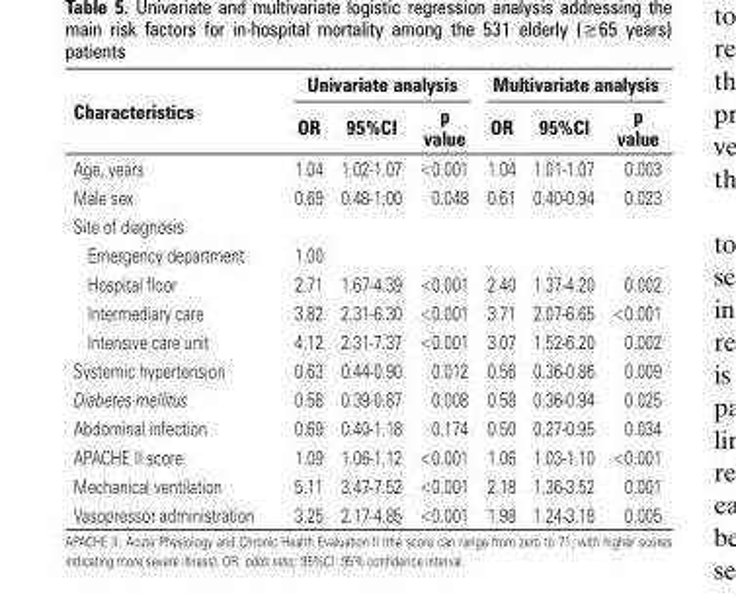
<table><thead><tr><td rowspan="2">Characteristics</td><td colspan="3">Univariate analysis</td><td colspan="3">Multivariate analysis</td></tr><tr><td>OR</td><td>95%CI</td><td>p value</td><td>OR</td><td>95%CI</td><td>p value</td></tr></thead><tbody><tr><td>Age, years</td><td>1.04</td><td>1.02-1.07</td><td>&lt;0.001</td><td>1.04</td><td>1.01-1.07</td><td>0.003</td></tr><tr><td>Male sex</td><td>0.69</td><td>0.48-1.00</td><td>0.048</td><td>0.61</td><td>0.40-0.94</td><td>0.023</td></tr><tr><td colspan="7">Site of diagnosis</td></tr><tr><td>Emergency department</td><td>1.00</td><td></td><td></td><td></td><td></td><td></td></tr><tr><td>Hospital floor</td><td>2.71</td><td>1.67-4.39</td><td>&lt;0.001</td><td>2.40</td><td>1.37-4.20</td><td>0.002</td></tr><tr><td>Intermediary care</td><td>3.82</td><td>2.31-6.30</td><td>&lt;0.001</td><td>3.71</td><td>2.07-6.65</td><td>&lt;0.001</td></tr><tr><td>Intensive care unit</td><td>4.12</td><td>2.31-7.37</td><td>&lt;0.001</td><td>3.07</td><td>1.52-6.20</td><td>0.002</td></tr><tr><td>Systemic hypertension</td><td>0.63</td><td>0.44-0.90</td><td>0.012</td><td>0.56</td><td>0.36-0.86</td><td>0.009</td></tr><tr><td>Diabetes mellitus</td><td>0.58</td><td>0.39-0.87</td><td>0.008</td><td>0.58</td><td>0.36-0.94</td><td>0.025</td></tr><tr><td>Abdominal infection</td><td>0.69</td><td>0.40-1.18</td><td>0.174</td><td>0.50</td><td>0.27-0.95</td><td>0.034</td></tr><tr><td>APACHE II score</td><td>1.09</td><td>1.06-1.12</td><td>&lt;0.001</td><td>1.06</td><td>1.03-1.10</td><td>&lt;0.001</td></tr><tr><td>Mechanical ventilation</td><td>5.11</td><td>3.47-7.52</td><td>&lt;0.001</td><td>2.18</td><td>1.36-3.52</td><td>0.001</td></tr><tr><td>Vasopressor administration</td><td>3.25</td><td>2.17-4.85</td><td>&lt;0.001</td><td>1.98</td><td>1.24-3.18</td><td>0.005</td></tr></tbody></table>